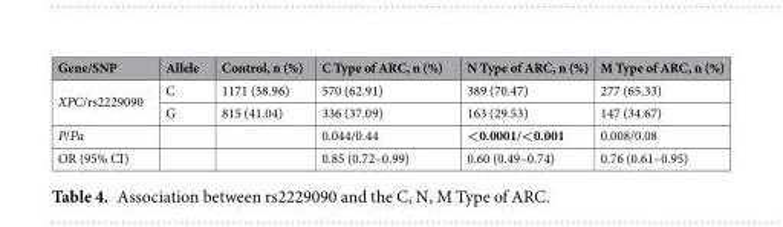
<table><thead><tr><td>Gene/SNP</td><td>Allele</td><td>Control, n (%)</td><td>C Type of ARC, n (%)</td><td>N Type of ARC, n (%)</td><td>M Type of ARC, n (%)</td></tr></thead><tbody><tr><td rowspan="2">XPC/rs2229090</td><td>C</td><td>1171 (58.96)</td><td>570 (62.91)</td><td>389 (70.47)</td><td>277 (65.33)</td></tr><tr><td>G</td><td>815 (41.04)</td><td>336 (37.09)</td><td>163 (29.53)</td><td>147 (34.67)</td></tr><tr><td>P/Pa</td><td></td><td></td><td>0.044/0.44</td><td>&lt;0.0001/&lt;0.001</td><td>0.008/0.08</td></tr><tr><td>OR (95% CI)</td><td></td><td></td><td>0.85 (0.72–0.99)</td><td>0.60 (0.49–0.74)</td><td>0.76 (0.61–0.95)</td></tr></tbody></table>